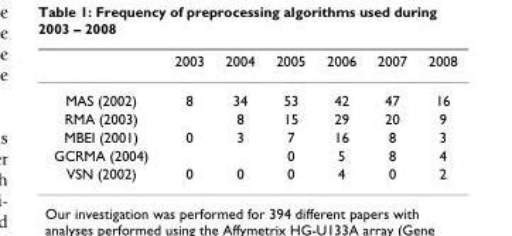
<table><thead><tr><td></td><td>2003</td><td>2004</td><td>2005</td><td>2006</td><td>2007</td><td>2008</td></tr></thead><tbody><tr><td>MAS (2002)</td><td>8</td><td>34</td><td>53</td><td>42</td><td>47</td><td>16</td></tr><tr><td>RMA (2003)</td><td></td><td>8</td><td>15</td><td>29</td><td>20</td><td>9</td></tr><tr><td>MBEI (2001)</td><td>0</td><td>3</td><td>7</td><td>16</td><td>8</td><td>3</td></tr><tr><td>GCRMA (2004)</td><td></td><td></td><td>0</td><td>5</td><td>8</td><td>4</td></tr><tr><td>VSN (2002)</td><td>0</td><td>0</td><td>0</td><td>4</td><td>0</td><td>2</td></tr></tbody></table>